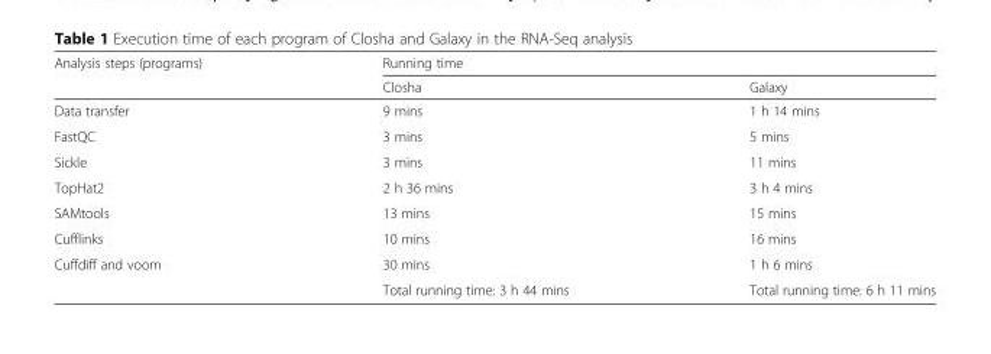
<table><thead><tr><td rowspan="2">Analysis steps (programs)</td><td colspan="2">Running time</td></tr><tr><td>Closha</td><td>Galaxy</td></tr></thead><tbody><tr><td>Data transfer</td><td>9 mins</td><td>1 h 14 mins</td></tr><tr><td>FastQC</td><td>3 mins</td><td>5 mins</td></tr><tr><td>Sickle</td><td>3 mins</td><td>11 mins</td></tr><tr><td>TopHat2</td><td>2 h 36 mins</td><td>3 h 4 mins</td></tr><tr><td>SAMtools</td><td>13 mins</td><td>15 mins</td></tr><tr><td>Cufflinks</td><td>10 mins</td><td>16 mins</td></tr><tr><td rowspan="2">Cuffdiff and voom</td><td>30 mins</td><td>1 h 6 mins</td></tr><tr><td>Total running time: 3 h 44 mins</td><td>Total running time: 6 h 11 mins</td></tr></tbody></table>